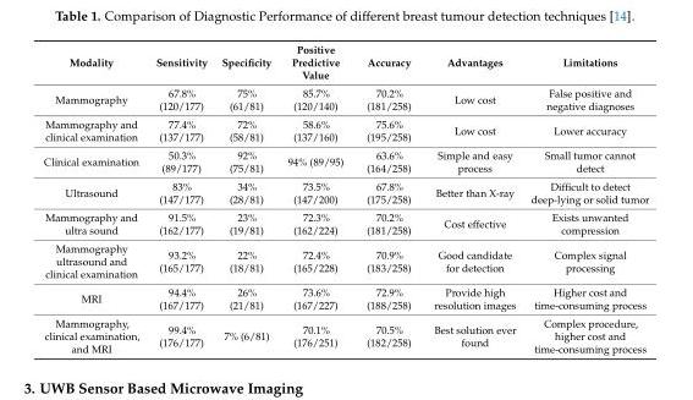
<table><thead><tr><td>Modality</td><td>Sensitivity</td><td>Specificity</td><td>Positive Predictive Value</td><td>Accuracy</td><td>Advantages</td><td>Limitations</td></tr></thead><tbody><tr><td>Mammography</td><td>67.8% (120/177)</td><td>75% (61/81)</td><td>85.7% (120/140)</td><td>70.2% (181/258)</td><td>Low cost</td><td>False positive and negative diagnoses</td></tr><tr><td>Mammography and clinical examination</td><td>77.4% (137/177)</td><td>72% (58/81)</td><td>58.6% (137/160)</td><td>75.6% (195/258)</td><td>Low cost</td><td>Lower accuracy</td></tr><tr><td>Clinical examination</td><td>50.3% (89/177)</td><td>92% (75/81)</td><td>94% (89/95)</td><td>63.6% (164/258)</td><td>Simple and easy process</td><td>Small tumor cannot detect</td></tr><tr><td>Ultrasound</td><td>83% (147/177)</td><td>34% (28/81)</td><td>73.5% (147/200)</td><td>67.8% (175/258)</td><td>Better than X-ray</td><td>Difficult to detect deep-lying or solid tumor</td></tr><tr><td>Mammography and ultra sound</td><td>91.5% (162/177)</td><td>23% (19/81)</td><td>72.3% (162/224)</td><td>70.2% (181/258)</td><td>Cost effective</td><td>Exists unwanted compression</td></tr><tr><td>Mammography ultrasound and clinical examination</td><td>93.2% (165/177)</td><td>22% (18/81)</td><td>72.4% (165/228)</td><td>70.9% (183/258)</td><td>Good candidate for detection</td><td>Complex signal processing</td></tr><tr><td>MRI</td><td>94.4% (167/177)</td><td>26% (21/81)</td><td>73.6% (167/227)</td><td>72.9% (188/258)</td><td>Provide high resolution images</td><td>Higher cost and time-consuming process</td></tr><tr><td>Mammography, clinical examination, and MRI</td><td>99.4% (176/177)</td><td>7% (6/81)</td><td>70.1% (176/251)</td><td>70.5% (182/258)</td><td>Best solution ever found</td><td>Complex procedure, higher cost and time-consuming process</td></tr></tbody></table>